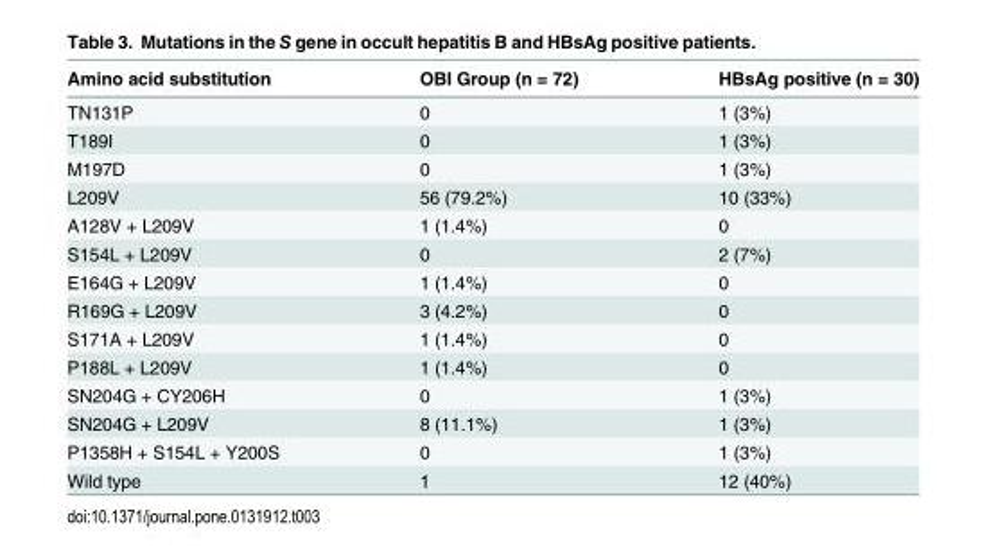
<table><thead><tr><td>Amino acid substitution</td><td>OBI Group (n = 72)</td><td>HBsAg positive (n = 30)</td></tr></thead><tbody><tr><td>TN131P</td><td>0</td><td>1 (3%)</td></tr><tr><td>T189I</td><td>0</td><td>1 (3%)</td></tr><tr><td>M197D</td><td>0</td><td>1 (3%)</td></tr><tr><td>L209V</td><td>56 (79.2%)</td><td>10 (33%)</td></tr><tr><td>A128V + L209V</td><td>1 (1.4%)</td><td>0</td></tr><tr><td>S154L + L209V</td><td>0</td><td>2 (7%)</td></tr><tr><td>E164G + L209V</td><td>1 (1.4%)</td><td>0</td></tr><tr><td>R169G + L209V</td><td>3 (4.2%)</td><td>0</td></tr><tr><td>S171A + L209V</td><td>1 (1.4%)</td><td>0</td></tr><tr><td>P188L + L209V</td><td>1 (1.4%)</td><td>0</td></tr><tr><td>SN204G + CY206H</td><td>0</td><td>1 (3%)</td></tr><tr><td>SN204G + L209V</td><td>8 (11.1%)</td><td>1 (3%)</td></tr><tr><td>P1358H + S154L + Y200S</td><td>0</td><td>1 (3%)</td></tr><tr><td>Wild type</td><td>1</td><td>12 (40%)</td></tr></tbody></table>